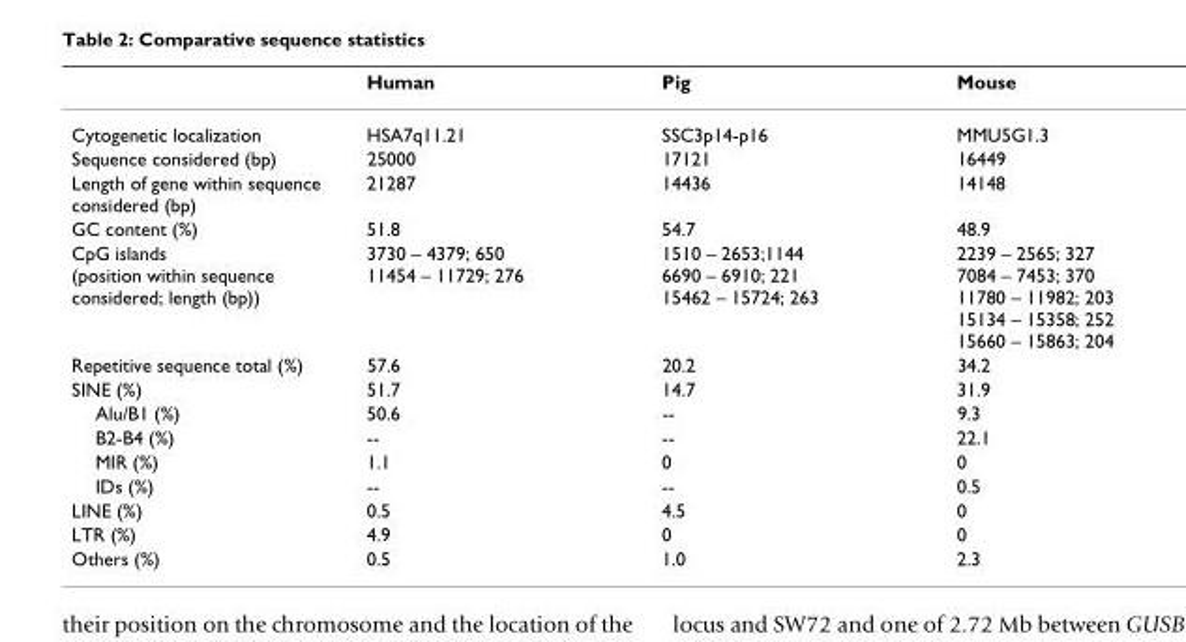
<table><thead><tr><td></td><td>Human</td><td>Pig</td><td>Mouse</td></tr></thead><tbody><tr><td>Cytogenetic localization</td><td>HSA7q11.21</td><td>SSC3p14-p16</td><td>MMU5G1.3</td></tr><tr><td>Sequence considered (bp)</td><td>25000</td><td>17121</td><td>16449</td></tr><tr><td>Length of gene within sequence considered (bp)</td><td>21287</td><td>14436</td><td>14148</td></tr><tr><td>GC content (%)</td><td>51.8</td><td>54.7</td><td>48.9</td></tr><tr><td>CpG islands (position within sequence considered; length (bp))</td><td>3730 – 4379; 650 11454 – 11729; 276</td><td>1510 – 2653;1144 6690 – 6910; 221 15462 – 15724; 263</td><td>2239 – 2565; 327 7084 – 7453; 370 11780 – 11982; 203 15134 – 15358; 252 15660 – 15863; 204</td></tr><tr><td>Repetitive sequence total (%)</td><td>57.6</td><td>20.2</td><td>34.2</td></tr><tr><td>SINE (%)</td><td>51.7</td><td>14.7</td><td>31.9</td></tr><tr><td>Alu/B1 (%)</td><td>50.6</td><td>--</td><td>9.3</td></tr><tr><td>B2-B4 (%)</td><td>--</td><td>--</td><td>22.1</td></tr><tr><td>MIR (%)</td><td>1.1</td><td>0</td><td>0</td></tr><tr><td>IDs (%)</td><td>--</td><td>--</td><td>0.5</td></tr><tr><td>LINE (%)</td><td>0.5</td><td>4.5</td><td>0</td></tr><tr><td>LTR (%)</td><td>4.9</td><td>0</td><td>0</td></tr><tr><td>Others (%)</td><td>0.5</td><td>1.0</td><td>2.3</td></tr></tbody></table>